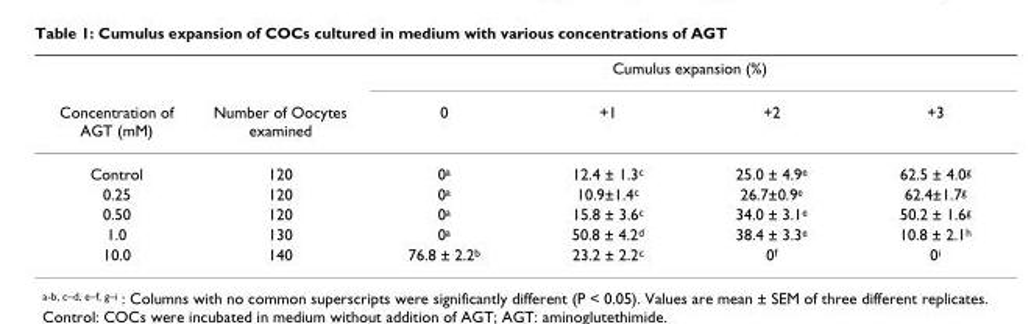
<table><thead><tr><td rowspan="2">Concentration of AGT (mM)</td><td rowspan="2">Number of Oocytes examined</td><td colspan="4">Cumulus expansion (%)</td></tr><tr><td>0</td><td>+1</td><td>+2</td><td>+3</td></tr></thead><tbody><tr><td>Control</td><td>120</td><td>0<sup>a</sup></td><td>12.4 ± 1.3<sup>c</sup></td><td>25.0 ± 4.9<sup>e</sup></td><td>62.5 ± 4.0<sup>g</sup></td></tr><tr><td>0.25</td><td>120</td><td>0<sup>a</sup></td><td>10.9±1.4<sup>c</sup></td><td>26.7±0.9<sup>e</sup></td><td>62.4±1.7<sup>g</sup></td></tr><tr><td>0.50</td><td>120</td><td>0<sup>a</sup></td><td>15.8 ± 3.6<sup>c</sup></td><td>34.0 ± 3.1<sup>e</sup></td><td>50.2 ± 1.6<sup>g</sup></td></tr><tr><td>1.0</td><td>130</td><td>0<sup>a</sup></td><td>50.8 ± 4.2<sup>d</sup></td><td>38.4 ± 3.3<sup>e</sup></td><td>10.8 ± 2.1<sup>h</sup></td></tr><tr><td>10.0</td><td>140</td><td>76.8 ± 2.2<sup>b</sup></td><td>23.2 ± 2.2<sup>c</sup></td><td>0<sup>f</sup></td><td>0<sup>i</sup></td></tr></tbody></table>